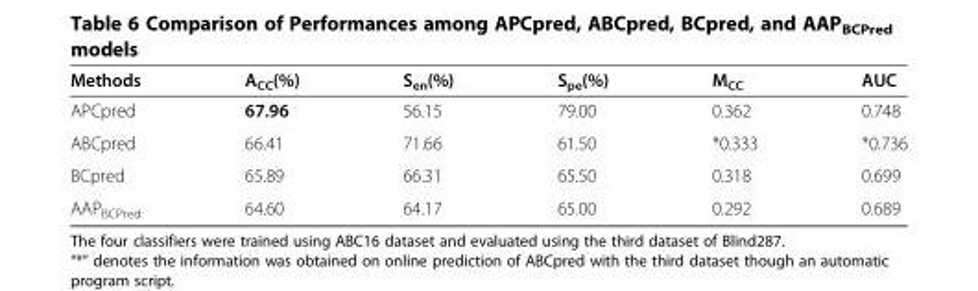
<table><thead><tr><td>Methods</td><td>A<sub>CC</sub>(%)</td><td>S<sub>en</sub>(%)</td><td>S<sub>pe</sub>(%)</td><td>M<sub>CC</sub></td><td>AUC</td></tr></thead><tbody><tr><td>APCpred</td><td>67.96</td><td>56.15</td><td>79.00</td><td>0.362</td><td>0.748</td></tr><tr><td>ABCpred</td><td>66.41</td><td>71.66</td><td>61.50</td><td>*0.333</td><td>*0.736</td></tr><tr><td>BCpred</td><td>65.89</td><td>66.31</td><td>65.50</td><td>0.318</td><td>0.699</td></tr><tr><td>AAP<sub>BCPred</sub></td><td>64.60</td><td>64.17</td><td>65.00</td><td>0.292</td><td>0.689</td></tr></tbody></table>